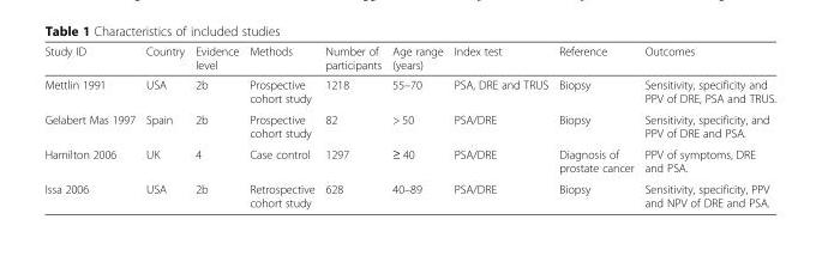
<table><thead><tr><td>Study ID</td><td>Country</td><td>Evidence level</td><td>Methods</td><td>Number of participants</td><td>Age range (years)</td><td>Index test</td><td>Reference</td><td>Outcomes</td></tr></thead><tbody><tr><td>Mettlin 1991</td><td>USA</td><td>2b</td><td>Prospective cohort study</td><td>1218</td><td>55–70</td><td>PSA, DRE and TRUS</td><td>Biopsy</td><td>Sensitivity, specificity and PPV of DRE, PSA and TRUS.</td></tr><tr><td>Gelabert Mas 1997</td><td>Spain</td><td>2b</td><td>Prospective cohort study</td><td>82</td><td>&gt; 50</td><td>PSA/DRE</td><td>Biopsy</td><td>Sensitivity, specificity, and PPV of DRE and PSA.</td></tr><tr><td>Hamilton 2006</td><td>UK</td><td>4</td><td>Case control</td><td>1297</td><td>≥ 40</td><td>PSA/DRE</td><td>Diagnosis of prostate cancer</td><td>PPV of symptoms, DRE and PSA.</td></tr><tr><td>Issa 2006</td><td>USA</td><td>2b</td><td>Retrospective cohort study</td><td>628</td><td>40–89</td><td>PSA/DRE</td><td>Biopsy</td><td>Sensitivity, specificity, PPV and NPV of DRE and PSA.</td></tr></tbody></table>